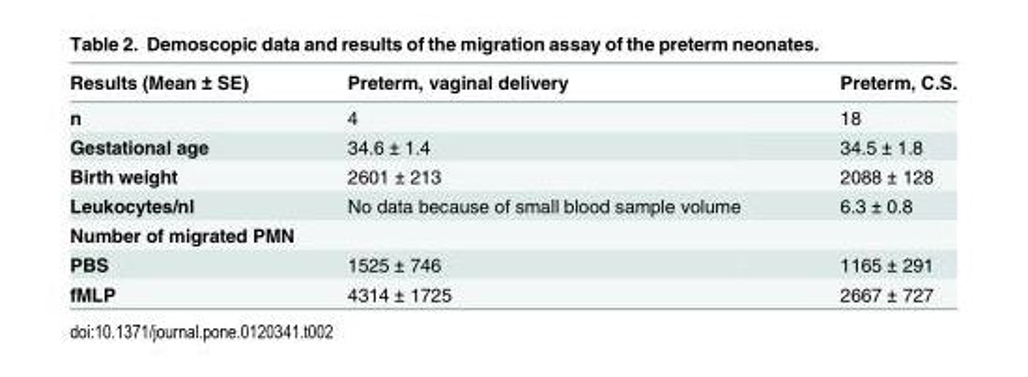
<table><thead><tr><td>Results (Mean ± SE)</td><td>Preterm, vaginal delivery</td><td>Preterm, C.S.</td></tr></thead><tbody><tr><td>n</td><td>4</td><td>18</td></tr><tr><td>Gestational age</td><td>34.6 ± 1.4</td><td>34.5 ± 1.8</td></tr><tr><td>Birth weight</td><td>2601 ± 213</td><td>2088 ± 128</td></tr><tr><td>Leukocytes/nl</td><td>No data because of small blood sample volume</td><td>6.3 ± 0.8</td></tr><tr><td colspan="3">Number of migrated PMN</td></tr><tr><td>PBS</td><td>1525 ± 746</td><td>1165 ± 291</td></tr><tr><td>fMLP</td><td>4314 ± 1725</td><td>2667 ± 727</td></tr></tbody></table>